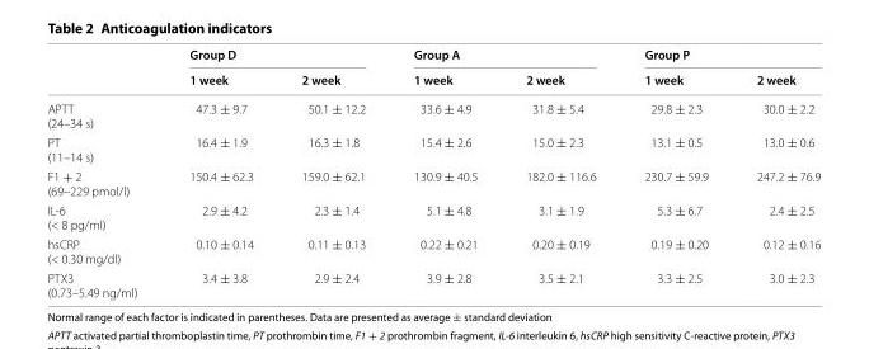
<table><thead><tr><td rowspan="2"></td><td colspan="2">Group D</td><td colspan="2">Group A</td><td colspan="2">Group P</td></tr><tr><td>1 week</td><td>2 week</td><td>1 week</td><td>2 week</td><td>1 week</td><td>2 week</td></tr></thead><tbody><tr><td>APTT (24–34 s)</td><td>47.3 ± 9.7</td><td>50.1 ± 12.2</td><td>33.6 ± 4.9</td><td>31.8 ± 5.4</td><td>29.8 ± 2.3</td><td>30.0 ± 2.2</td></tr><tr><td>PT (11–14 s)</td><td>16.4 ± 1.9</td><td>16.3 ± 1.8</td><td>15.4 ± 2.6</td><td>15.0 ± 2.3</td><td>13.1 ± 0.5</td><td>13.0 ± 0.6</td></tr><tr><td>F1 + 2 (69–229 pmol/l)</td><td>150.4 ± 62.3</td><td>159.0 ± 62.1</td><td>130.9 ± 40.5</td><td>182.0 ± 116.6</td><td>230.7 ± 59.9</td><td>247.2 ± 76.9</td></tr><tr><td>IL-6 (&lt; 8 pg/ml)</td><td>2.9 ± 4.2</td><td>2.3 ± 1.4</td><td>5.1 ± 4.8</td><td>3.1 ± 1.9</td><td>5.3 ± 6.7</td><td>2.4 ± 2.5</td></tr><tr><td>hsCRP (&lt; 0.30 mg/dl)</td><td>0.10 ± 0.14</td><td>0.11 ± 0.13</td><td>0.22 ± 0.21</td><td>0.20 ± 0.19</td><td>0.19 ± 0.20</td><td>0.12 ± 0.16</td></tr><tr><td>PTX3 (0.73–5.49 ng/ml)</td><td>3.4 ± 3.8</td><td>2.9 ± 2.4</td><td>3.9 ± 2.8</td><td>3.5 ± 2.1</td><td>3.3 ± 2.5</td><td>3.0 ± 2.3</td></tr></tbody></table>